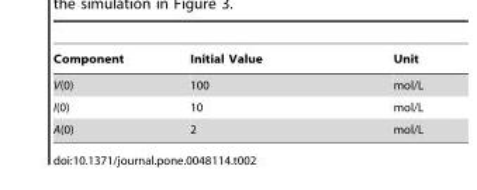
<table><thead><tr><td>Component</td><td>Initial Value</td><td>Unit</td></tr></thead><tbody><tr><td>V(0)</td><td>100</td><td>mol/L</td></tr><tr><td>I(0)</td><td>10</td><td>mol/L</td></tr><tr><td>A(0)</td><td>2</td><td>mol/L</td></tr></tbody></table>